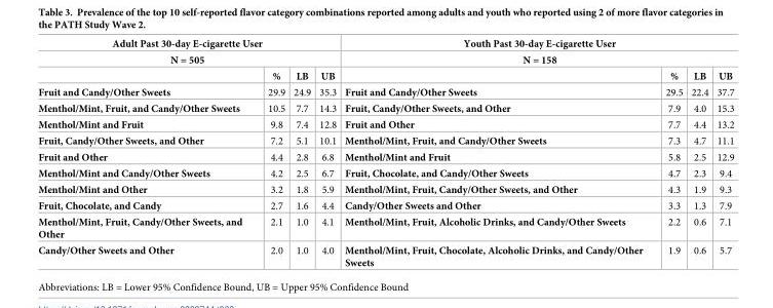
<table><thead><tr><td rowspan="2" colspan="4">Adult Past 30-day E-cigarette User N = 505</td><td rowspan="2" colspan="4">Youth Past 30-day E-cigarette User N = 158</td></tr><tr></tr><tr><td></td><td>%</td><td>LB</td><td>UB</td><td></td><td>%</td><td>LB</td><td>UB</td></tr></thead><tbody><tr><td>Fruit and Candy/Other Sweets</td><td>29.9</td><td>24.9</td><td>35.3</td><td>Fruit and Candy/Other Sweets</td><td>29.5</td><td>22.4</td><td>37.7</td></tr><tr><td>Menthol/Mint, Fruit, and Candy/Other Sweets</td><td>10.5</td><td>7.7</td><td>14.3</td><td>Fruit, Candy/Other Sweets, and Other</td><td>7.9</td><td>4.0</td><td>15.3</td></tr><tr><td>Menthol/Mint and Fruit</td><td>9.8</td><td>7.4</td><td>12.8</td><td>Fruit and Other</td><td>7.7</td><td>4.4</td><td>13.2</td></tr><tr><td>Fruit, Candy/Other Sweets, and Other</td><td>7.2</td><td>5.1</td><td>10.1</td><td>Menthol/Mint, Fruit, and Candy/Other Sweets</td><td>7.3</td><td>4.7</td><td>11.1</td></tr><tr><td>Fruit and Other</td><td>4.4</td><td>2.8</td><td>6.8</td><td>Menthol/Mint and Fruit</td><td>5.8</td><td>2.5</td><td>12.9</td></tr><tr><td>Menthol/Mint and Candy/Other Sweets</td><td>4.2</td><td>2.5</td><td>6.7</td><td>Fruit, Chocolate, and Candy/Other Sweets</td><td>4.7</td><td>2.3</td><td>9.4</td></tr><tr><td>Menthol/Mint and Other</td><td>3.2</td><td>1.8</td><td>5.9</td><td>Menthol/Mint, Fruit, Candy/Other Sweets, and Other</td><td>4.3</td><td>1.9</td><td>9.3</td></tr><tr><td>Fruit, Chocolate, and Candy</td><td>2.7</td><td>1.6</td><td>4.4</td><td>Candy/Other Sweets and Other</td><td>3.3</td><td>1.3</td><td>7.9</td></tr><tr><td>Menthol/Mint, Fruit, Candy/Other Sweets, and Other</td><td>2.1</td><td>1.0</td><td>4.1</td><td>Menthol/Mint, Fruit, Alcoholic Drinks, and Candy/Other Sweets</td><td>2.2</td><td>0.6</td><td>7.1</td></tr><tr><td>Candy/Other Sweets and Other</td><td>2.0</td><td>1.0</td><td>4.0</td><td>Menthol/Mint, Fruit, Chocolate, Alcoholic Drinks, and Candy/Other Sweets</td><td>1.9</td><td>0.6</td><td>5.7</td></tr></tbody></table>